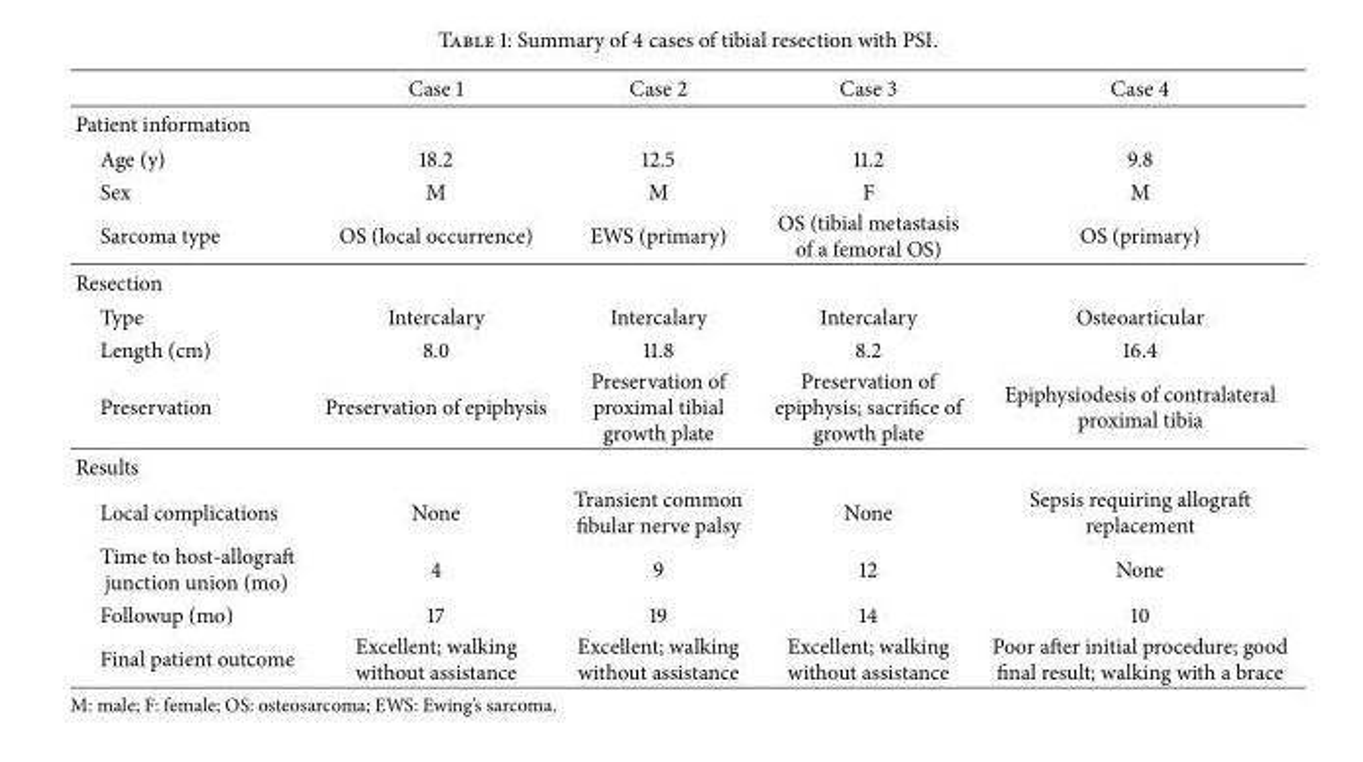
<table><thead><tr><td></td><td>Case 1</td><td>Case 2</td><td>Case 3</td><td>Case 4</td></tr></thead><tbody><tr><td colspan="5">Patient information</td></tr><tr><td>Age (y)</td><td>18.2</td><td>12.5</td><td>11.2</td><td>9.8</td></tr><tr><td>Sex</td><td>M</td><td>M</td><td>F</td><td>M</td></tr><tr><td>Sarcoma type</td><td>OS (local occurrence)</td><td>EWS (primary)</td><td>OS (tibial metastasis of a femoral OS)</td><td>OS (primary)</td></tr><tr><td colspan="5">Resection</td></tr><tr><td>Type</td><td>Intercalary</td><td>Intercalary</td><td>Intercalary</td><td>Osteoarticular</td></tr><tr><td>Length (cm)</td><td>8.0</td><td>11.8</td><td>8.2</td><td>16.4</td></tr><tr><td>Preservation</td><td>Preservation of epiphysis</td><td>Preservation of proximal tibial growth plate</td><td>Preservation of epiphysis; sacrifice of growth plate</td><td>Epiphysiodesis of contralateral proximal tibia</td></tr><tr><td colspan="5">Results</td></tr><tr><td>Local complications</td><td>None</td><td>Transient common fibular nerve palsy</td><td>None</td><td>Sepsis requiring allograft replacement</td></tr><tr><td>Time to host-allograft junction union (mo)</td><td>4</td><td>9</td><td>12</td><td>None</td></tr><tr><td>Followup (mo)</td><td>17</td><td>19</td><td>14</td><td>10</td></tr><tr><td>Final patient outcome</td><td>Excellent; walking without assistance</td><td>Excellent; walking without assistance</td><td>Excellent; walking without assistance</td><td>Poor after initial procedure; good final result; walking with a brace</td></tr></tbody></table>